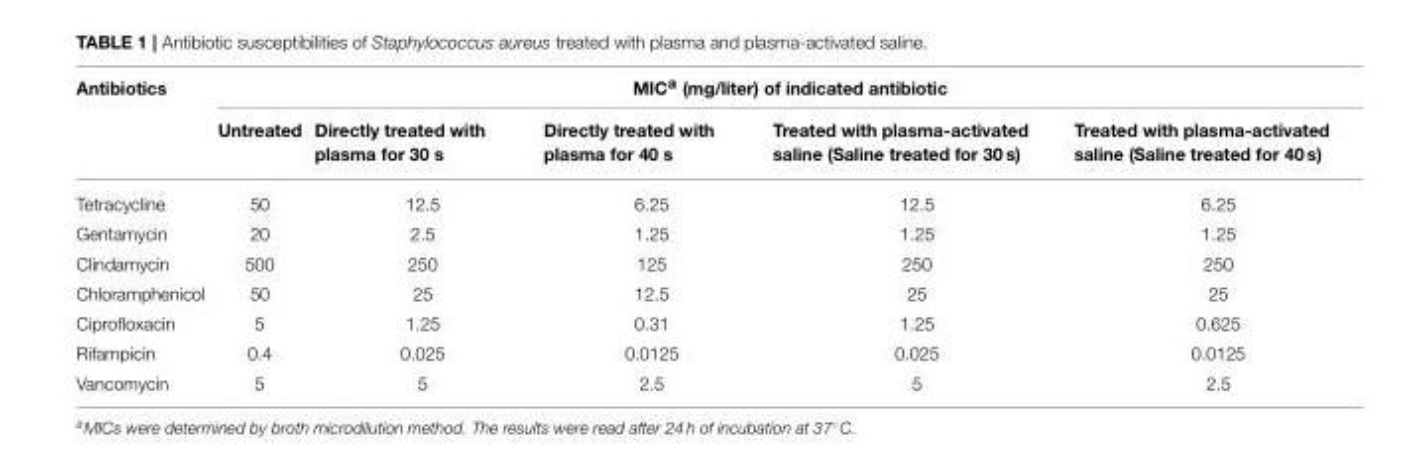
<table><thead><tr><td rowspan="2">Antibiotics</td><td colspan="5">MIC<sup>a</sup> (mg/liter) of indicated antibiotic</td></tr><tr><td>Untreated</td><td>Directly treated with plasma for 30 s</td><td>Directly treated with plasma for 40 s</td><td>Treated with plasma-activated saline (Saline treated for 30 s)</td><td>Treated with plasma-activated saline (Saline treated for 40 s)</td></tr></thead><tbody><tr><td>Tetracycline</td><td>50</td><td>12.5</td><td>6.25</td><td>12.5</td><td>6.25</td></tr><tr><td>Gentamycin</td><td>20</td><td>2.5</td><td>1.25</td><td>1.25</td><td>1.25</td></tr><tr><td>Clindamycin</td><td>500</td><td>250</td><td>125</td><td>250</td><td>250</td></tr><tr><td>Chloramphenicol</td><td>50</td><td>25</td><td>12.5</td><td>25</td><td>25</td></tr><tr><td>Ciprofloxacin</td><td>5</td><td>1.25</td><td>0.31</td><td>1.25</td><td>0.625</td></tr><tr><td>Rifampicin</td><td>0.4</td><td>0.025</td><td>0.0125</td><td>0.025</td><td>0.0125</td></tr><tr><td>Vancomycin</td><td>5</td><td>5</td><td>2.5</td><td>5</td><td>2.5</td></tr></tbody></table>